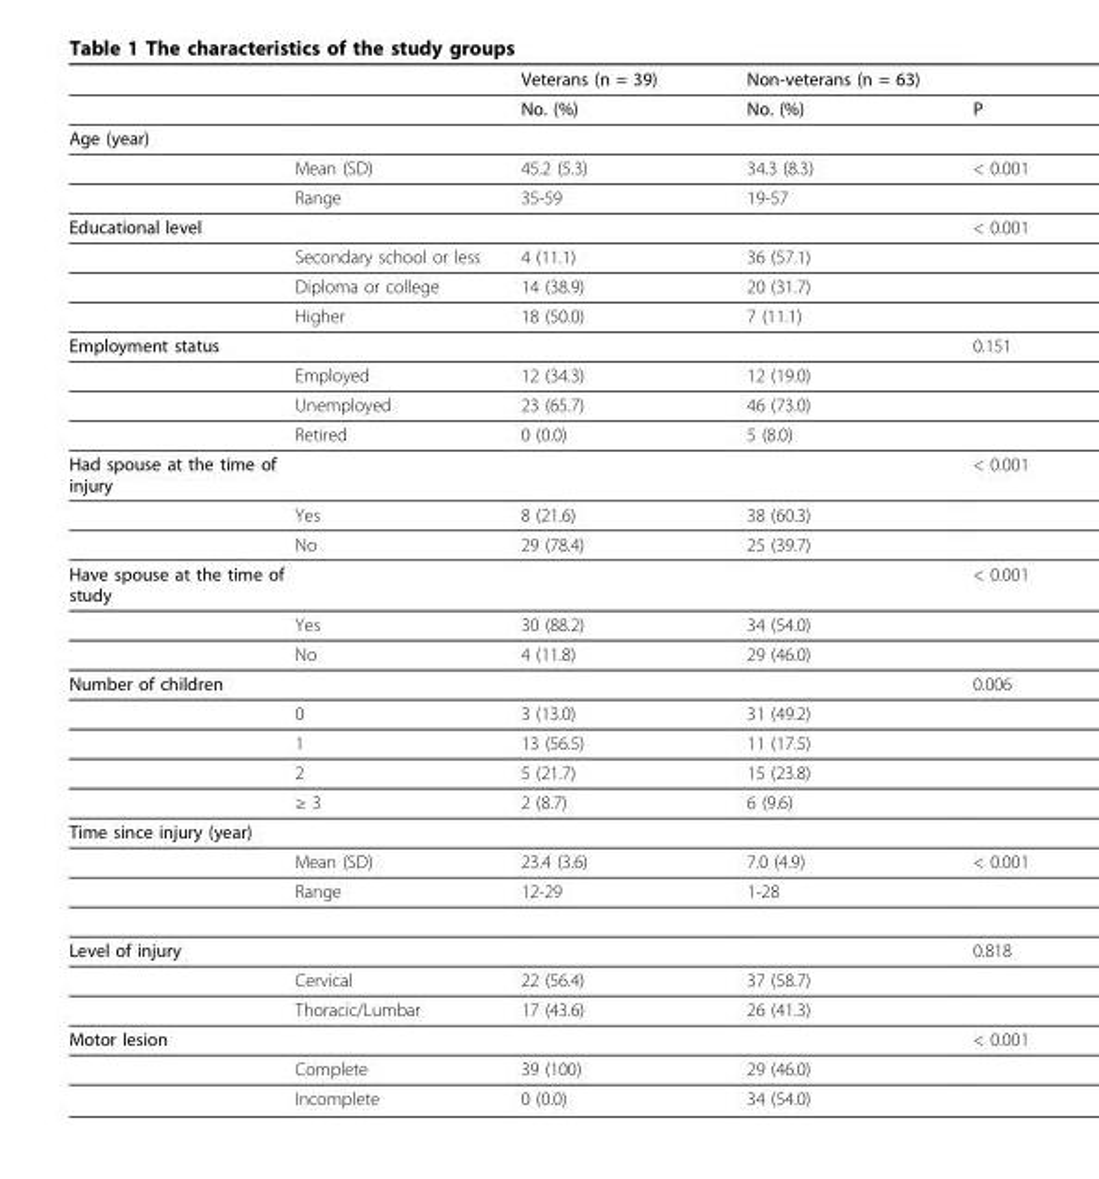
<table><thead><tr><td></td><td></td><td>Veterans (n = 39)</td><td>Non-veterans (n = 63)</td><td></td></tr></thead><tbody><tr><td></td><td></td><td>No. (%)</td><td>No. (%)</td><td>P</td></tr><tr><td colspan="5">Age (year)</td></tr><tr><td></td><td>Mean (SD)</td><td>45.2 (5.3)</td><td>34.3 (8.3)</td><td>&lt; 0.001</td></tr><tr><td></td><td>Range</td><td>35-59</td><td>19-57</td><td></td></tr><tr><td rowspan="4">Educational level</td><td></td><td></td><td></td><td>&lt; 0.001</td></tr><tr><td>Secondary school or less</td><td>4 (11.1)</td><td>36 (57.1)</td><td></td></tr><tr><td>Diploma or college</td><td>14 (38.9)</td><td>20 (31.7)</td><td></td></tr><tr><td>Higher</td><td>18 (50.0)</td><td>7 (11.1)</td><td></td></tr><tr><td rowspan="4">Employment status</td><td></td><td></td><td></td><td>0.151</td></tr><tr><td>Employed</td><td>12 (34.3)</td><td>12 (19.0)</td><td></td></tr><tr><td>Unemployed</td><td>23 (65.7)</td><td>46 (73.0)</td><td></td></tr><tr><td>Retired</td><td>0 (0.0)</td><td>5 (8.0)</td><td></td></tr><tr><td rowspan="3">Had spouse at the time of injury</td><td></td><td></td><td></td><td>&lt; 0.001</td></tr><tr><td>Yes</td><td>8 (21.6)</td><td>38 (60.3)</td><td></td></tr><tr><td>No</td><td>29 (78.4)</td><td>25 (39.7)</td><td></td></tr><tr><td rowspan="3">Have spouse at the time of study</td><td></td><td></td><td></td><td>&lt; 0.001</td></tr><tr><td>Yes</td><td>30 (88.2)</td><td>34 (54.0)</td><td></td></tr><tr><td>No</td><td>4 (11.8)</td><td>29 (46.0)</td><td></td></tr><tr><td rowspan="5">Number of children</td><td></td><td></td><td></td><td>0.006</td></tr><tr><td>0</td><td>3 (13.0)</td><td>31 (49.2)</td><td></td></tr><tr><td>1</td><td>13 (56.5)</td><td>11 (17.5)</td><td></td></tr><tr><td>2</td><td>5 (21.7)</td><td>15 (23.8)</td><td></td></tr><tr><td>≥ 3</td><td>2 (8.7)</td><td>6 (9.6)</td><td></td></tr><tr><td colspan="5">Time since injury (year)</td></tr><tr><td></td><td>Mean (SD)</td><td>23.4 (3.6)</td><td>7.0 (4.9)</td><td>&lt; 0.001</td></tr><tr><td></td><td>Range</td><td>12-29</td><td>1-28</td><td></td></tr><tr><td rowspan="3">Level of injury</td><td></td><td></td><td></td><td>0.818</td></tr><tr><td>Cervical</td><td>22 (56.4)</td><td>37 (58.7)</td><td></td></tr><tr><td>Thoracic/Lumbar</td><td>17 (43.6)</td><td>26 (41.3)</td><td></td></tr><tr><td rowspan="3">Motor lesion</td><td></td><td></td><td></td><td>&lt; 0.001</td></tr><tr><td>Complete</td><td>39 (100)</td><td>29 (46.0)</td><td></td></tr><tr><td>Incomplete</td><td>0 (0.0)</td><td>34 (54.0)</td><td></td></tr></tbody></table>